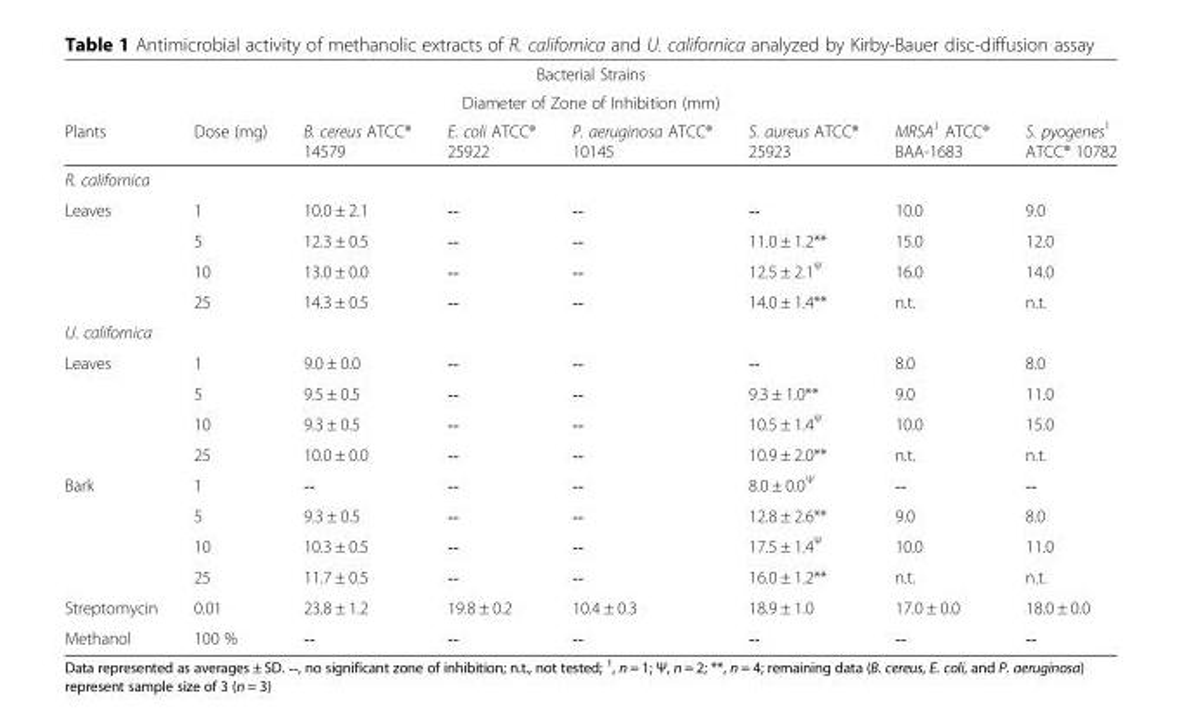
<table><thead><tr><td rowspan="2" colspan="8">Bacterial Strains Diameter of Zone of Inhibition (mm)</td></tr><tr></tr><tr><td>Plants</td><td>Dose (mg)</td><td>B. cereus ATCC® 14579</td><td>E. coli ATCC® 25922</td><td>P. aeruginosa ATCC® 10145</td><td>S. aureus ATCC® 25923</td><td>MRSA<sup>1</sup> ATCC® BAA-1683</td><td>S. pyogenes<sup>1</sup> ATCC® 10782</td></tr></thead><tbody><tr><td colspan="8">R. californica</td></tr><tr><td rowspan="4">Leaves</td><td>1</td><td>10.0 ± 2.1</td><td>--</td><td>--</td><td>--</td><td>10.0</td><td>9.0</td></tr><tr><td>5</td><td>12.3 ± 0.5</td><td>--</td><td>--</td><td>11.0 ± 1.2**</td><td>15.0</td><td>12.0</td></tr><tr><td>10</td><td>13.0 ± 0.0</td><td>--</td><td>--</td><td>12.5 ± 2.1<sup>Ψ</sup></td><td>16.0</td><td>14.0</td></tr><tr><td>25</td><td>14.3 ± 0.5</td><td>--</td><td>--</td><td>14.0 ± 1.4**</td><td>n.t.</td><td>n.t.</td></tr><tr><td colspan="8">U. californica</td></tr><tr><td rowspan="4">Leaves</td><td>1</td><td>9.0 ± 0.0</td><td>--</td><td>--</td><td>--</td><td>8.0</td><td>8.0</td></tr><tr><td>5</td><td>9.5 ± 0.5</td><td>--</td><td>--</td><td>9.3 ± 1.0**</td><td>9.0</td><td>11.0</td></tr><tr><td>10</td><td>9.3 ± 0.5</td><td>--</td><td>--</td><td>10.5 ± 1.4<sup>Ψ</sup></td><td>10.0</td><td>15.0</td></tr><tr><td>25</td><td>10.0 ± 0.0</td><td>--</td><td>--</td><td>10.9 ± 2.0**</td><td>n.t.</td><td>n.t.</td></tr><tr><td rowspan="4">Bark</td><td>1</td><td>--</td><td>--</td><td>--</td><td>8.0 ± 0.0<sup>Ψ</sup></td><td>--</td><td>--</td></tr><tr><td>5</td><td>9.3 ± 0.5</td><td>--</td><td>--</td><td>12.8 ± 2.6**</td><td>9.0</td><td>8.0</td></tr><tr><td>10</td><td>10.3 ± 0.5</td><td>--</td><td>--</td><td>17.5 ± 1.4<sup>Ψ</sup></td><td>10.0</td><td>11.0</td></tr><tr><td>25</td><td>11.7 ± 0.5</td><td>--</td><td>--</td><td>16.0 ± 1.2**</td><td>n.t.</td><td>n.t.</td></tr><tr><td>Streptomycin</td><td>0.01</td><td>23.8 ± 1.2</td><td>19.8 ± 0.2</td><td>10.4 ± 0.3</td><td>18.9 ± 1.0</td><td>17.0 ± 0.0</td><td>18.0 ± 0.0</td></tr><tr><td>Methanol</td><td>100 %</td><td>--</td><td>--</td><td>--</td><td>--</td><td>--</td><td>--</td></tr></tbody></table>